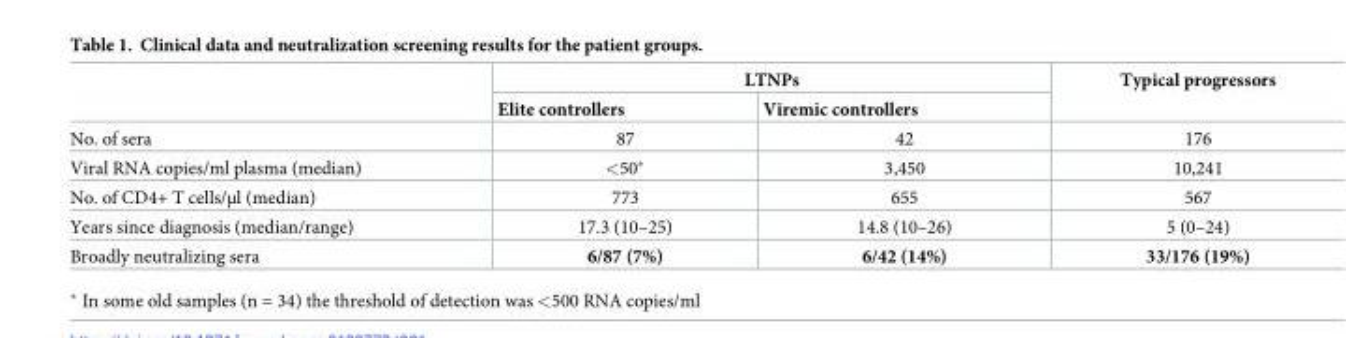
<table><thead><tr><td rowspan="2"></td><td colspan="2">LTNPs</td><td rowspan="2">Typical progressors</td></tr><tr><td>Elite controllers</td><td>Viremic controllers</td></tr></thead><tbody><tr><td>No. of sera</td><td>87</td><td>42</td><td>176</td></tr><tr><td>Viral RNA copies/ml plasma (median)</td><td>&lt;50*</td><td>3,450</td><td>10,241</td></tr><tr><td>No. of CD4+ T cells/μl (median)</td><td>773</td><td>655</td><td>567</td></tr><tr><td>Years since diagnosis (median/range)</td><td>17.3 (10–25)</td><td>14.8 (10–26)</td><td>5 (0–24)</td></tr><tr><td>Broadly neutralizing sera</td><td>6/87 (7%)</td><td>6/42 (14%)</td><td>33/176 (19%)</td></tr></tbody></table>